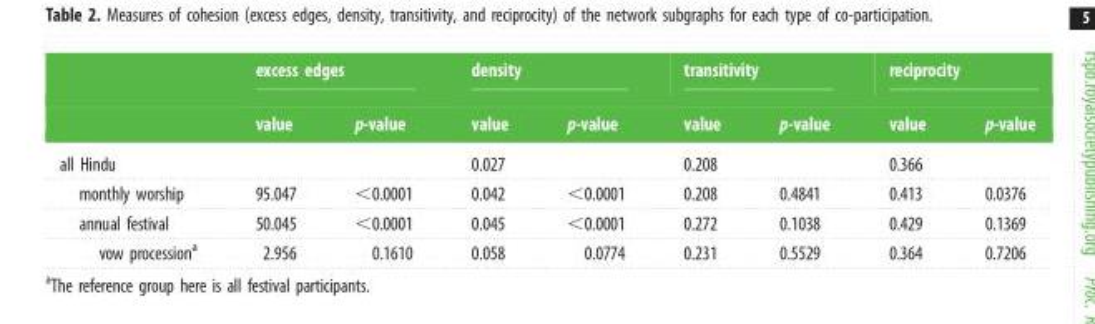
<table><thead><tr><td rowspan="2"></td><td colspan="2">excess edges</td><td colspan="2">density</td><td colspan="2">transitivity</td><td colspan="2">reciprocity</td></tr><tr><td>value</td><td>p-value</td><td>value</td><td>p-value</td><td>value</td><td>p-value</td><td>value</td><td>p-value</td></tr></thead><tbody><tr><td>all Hindu</td><td></td><td></td><td>0.027</td><td></td><td>0.208</td><td></td><td>0.366</td><td></td></tr><tr><td>monthly worship</td><td>95.047</td><td>&lt;0.0001</td><td>0.042</td><td>&lt;0.0001</td><td>0.208</td><td>0.4841</td><td>0.413</td><td>0.0376</td></tr><tr><td>annual festival</td><td>50.045</td><td>&lt;0.0001</td><td>0.045</td><td>&lt;0.0001</td><td>0.272</td><td>0.1038</td><td>0.429</td><td>0.1369</td></tr><tr><td>vow procession<sup>a</sup></td><td>2.956</td><td>0.1610</td><td>0.058</td><td>0.0774</td><td>0.231</td><td>0.5529</td><td>0.364</td><td>0.7206</td></tr></tbody></table>